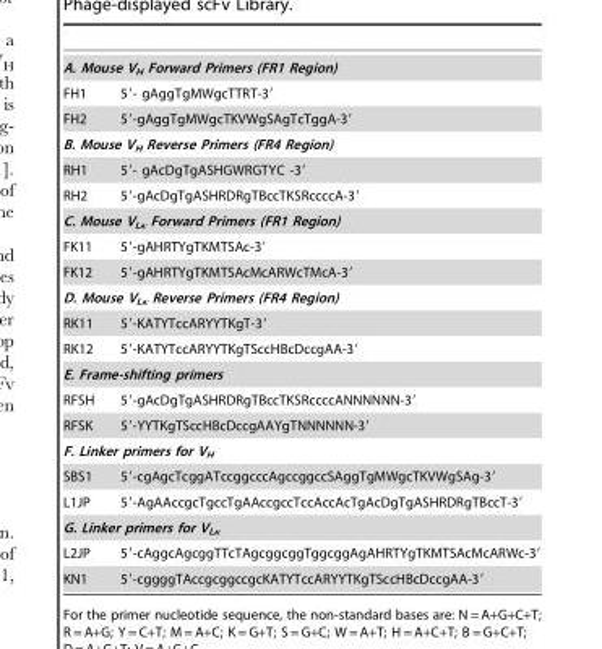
<table><tbody><tr><td colspan="2">A. Mouse V<sub>H</sub> Forward Primers (FR1 Region)</td></tr><tr><td>FH1</td><td>5′- gAggTgMWgcTTRT-3′</td></tr><tr><td>FH2</td><td>5′-gAggTgMWgcTKVWgSAgTcTggA-3′</td></tr><tr><td colspan="2">B. Mouse V<sub>H</sub> Reverse Primers (FR4 Region)</td></tr><tr><td>RH1</td><td>5′- gAcDgTgASHGWRGTYC -3′</td></tr><tr><td>RH2</td><td>5′-gAcDgTgASHRDRgTBccTKSRccccA-3′</td></tr><tr><td colspan="2">C. Mouse V<sub>Lκ</sub> Forward Primers (FR1 Region)</td></tr><tr><td>FK11</td><td>5′-gAHRTYgTKMTSAc-3′</td></tr><tr><td>FK12</td><td>5′-gAHRTYgTKMTSAcMcARWcTMcA-3′</td></tr><tr><td colspan="2">D. Mouse V<sub>Lκ</sub> Reverse Primers (FR4 Region)</td></tr><tr><td>RK11</td><td>5′-KATYTccARYYTKgT-3′</td></tr><tr><td>RK12</td><td>5′-KATYTccARYYTKgTSccHBcDccgAA-3′</td></tr><tr><td colspan="2">E. Frame-shifting primers</td></tr><tr><td>RFSH</td><td>5′-gAcDgTgASHRDRgTBccTKSRccccANNNNNN-3′</td></tr><tr><td>RFSK</td><td>5′-YYTKgTSccHBcDccgAAYgTNNNNNN-3′</td></tr><tr><td colspan="2">F. Linker primers for V<sub>H</sub></td></tr><tr><td>SBS1</td><td>5′-cgAgcTcggATccggcccAgccggccSAggTgMWgcTKVWgSAg-3′</td></tr><tr><td>L1JP</td><td>5′-AgAAccgcTgccTgAAccgccTccAccAcTgAcDgTgASHRDRgTBccT-3′</td></tr><tr><td colspan="2">G. Linker primers for V<sub>Lκ</sub></td></tr><tr><td>L2JP</td><td>5′-cAggcAgcggTTcTAgcggcggTggcggAgAHRTYgTKMTSAcMcARWc-3′</td></tr><tr><td>KN1</td><td>5′-cggggTAccgcggccgcKATYTccARYYTKgTSccHBcDccgAA-3′</td></tr></tbody></table>